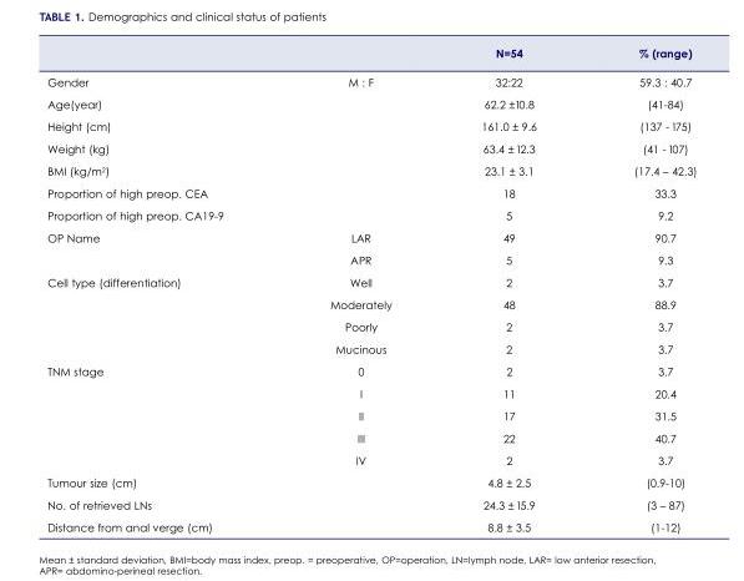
<table><thead><tr><td></td><td></td><td>N=54</td><td>% (range)</td></tr></thead><tbody><tr><td>Gender</td><td>M : F</td><td>32:22</td><td>59.3 : 40.7</td></tr><tr><td>Age(year)</td><td></td><td>62.2 ± 10.8</td><td>(41-84)</td></tr><tr><td>Height (cm)</td><td></td><td>161.0 ± 9.6</td><td>(137 - 175)</td></tr><tr><td>Weight (kg)</td><td></td><td>63.4 ± 12.3</td><td>(41 - 107)</td></tr><tr><td>BMI (kg/m<sup>2</sup>)</td><td></td><td>23.1 ± 3.1</td><td>(17.4 – 42.3)</td></tr><tr><td>Proportion of high preop. CEA</td><td></td><td>18</td><td>33.3</td></tr><tr><td>Proportion of high preop. CA19-9</td><td></td><td>5</td><td>9.2</td></tr><tr><td rowspan="2">OP Name</td><td>LAR</td><td>49</td><td>90.7</td></tr><tr><td>APR</td><td>5</td><td>9.3</td></tr><tr><td rowspan="4">Cell type (differentiation)</td><td>Well</td><td>2</td><td>3.7</td></tr><tr><td>Moderately</td><td>48</td><td>88.9</td></tr><tr><td>Poorly</td><td>2</td><td>3.7</td></tr><tr><td>Mucinous</td><td>2</td><td>3.7</td></tr><tr><td rowspan="5">TNM stage</td><td>0</td><td>2</td><td>3.7</td></tr><tr><td>I</td><td>11</td><td>20.4</td></tr><tr><td>II</td><td>17</td><td>31.5</td></tr><tr><td>III</td><td>22</td><td>40.7</td></tr><tr><td>IV</td><td>2</td><td>3.7</td></tr><tr><td>Tumour size (cm)</td><td></td><td>4.8 ± 2.5</td><td>(0.9-10)</td></tr><tr><td>No. of retrieved LNs</td><td></td><td>24.3 ± 15.9</td><td>(3 – 87)</td></tr><tr><td>Distance from anal verge (cm)</td><td></td><td>8.8 ± 3.5</td><td>(1-12)</td></tr></tbody></table>